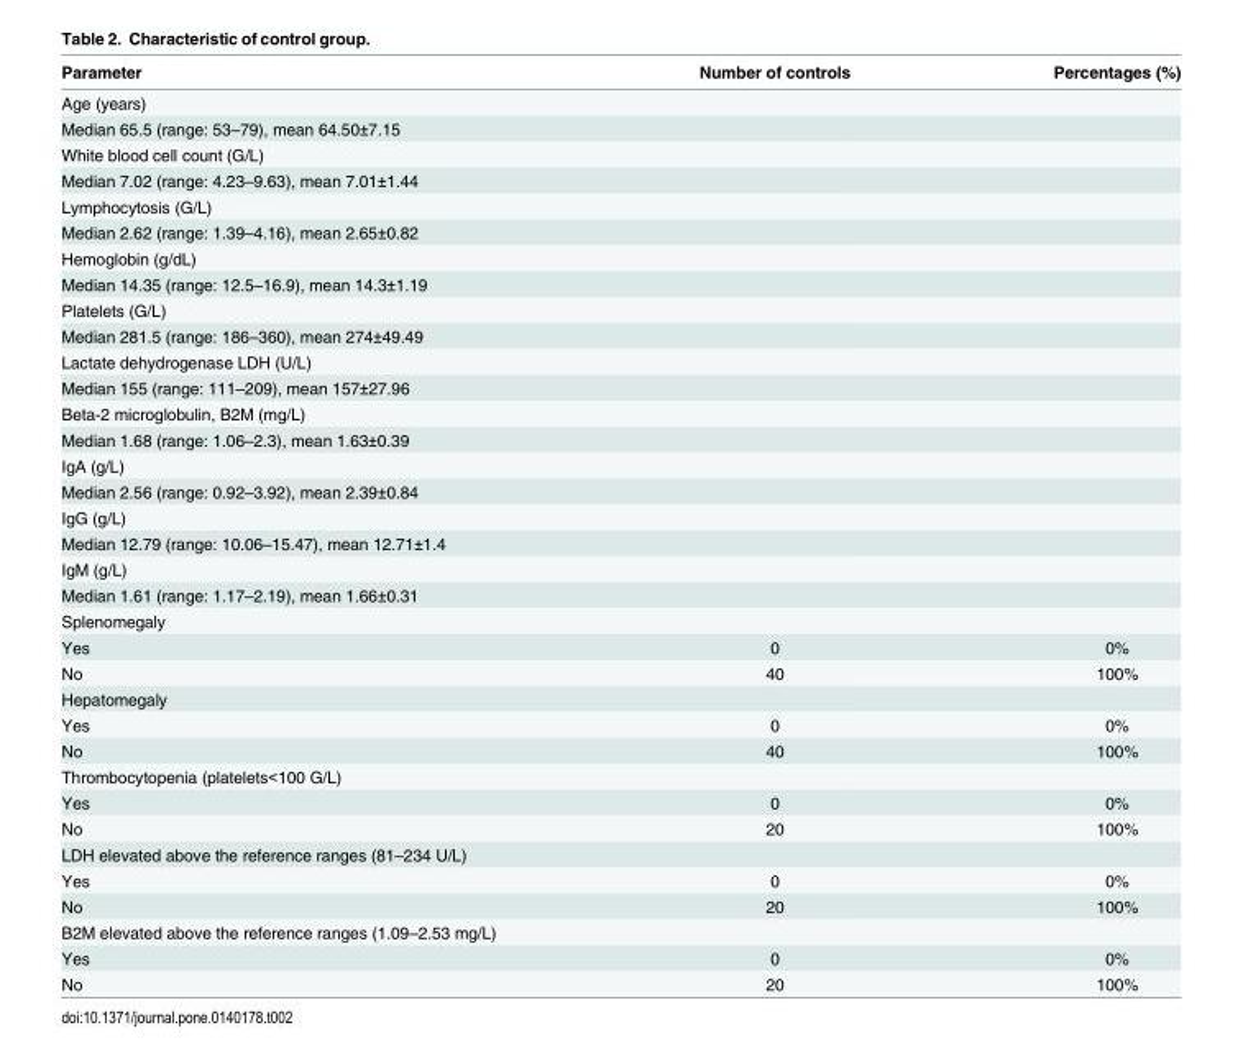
<table><thead><tr><td>Parameter</td><td>Number of controls</td><td>Percentages (%)</td></tr></thead><tbody><tr><td colspan="3">Age (years)</td></tr><tr><td colspan="3">Median 65.5 (range: 53–79), mean 64.50±7.15</td></tr><tr><td colspan="3">White blood cell count (G/L)</td></tr><tr><td colspan="3">Median 7.02 (range: 4.23–9.63), mean 7.01±1.44</td></tr><tr><td colspan="3">Lymphocytosis (G/L)</td></tr><tr><td colspan="3">Median 2.62 (range: 1.39–4.16), mean 2.65±0.82</td></tr><tr><td colspan="3">Hemoglobin (g/dL)</td></tr><tr><td colspan="3">Median 14.35 (range: 12.5–16.9), mean 14.3±1.19</td></tr><tr><td colspan="3">Platelets (G/L)</td></tr><tr><td colspan="3">Median 281.5 (range: 186–360), mean 274±49.49</td></tr><tr><td colspan="3">Lactate dehydrogenase LDH (U/L)</td></tr><tr><td colspan="3">Median 155 (range: 111–209), mean 157±27.96</td></tr><tr><td colspan="3">Beta-2 microglobulin, B2M (mg/L)</td></tr><tr><td colspan="3">Median 1.68 (range: 1.06–2.3), mean 1.63±0.39</td></tr><tr><td colspan="3">IgA (g/L)</td></tr><tr><td colspan="3">Median 2.56 (range: 0.92–3.92), mean 2.39±0.84</td></tr><tr><td colspan="3">IgG (g/L)</td></tr><tr><td colspan="3">Median 12.79 (range: 10.06–15.47), mean 12.71±1.4</td></tr><tr><td colspan="3">IgM (g/L)</td></tr><tr><td colspan="3">Median 1.61 (range: 1.17–2.19), mean 1.66±0.31</td></tr><tr><td colspan="3">Splenomegaly</td></tr><tr><td>Yes</td><td>0</td><td>0%</td></tr><tr><td>No</td><td>40</td><td>100%</td></tr><tr><td colspan="3">Hepatomegaly</td></tr><tr><td>Yes</td><td>0</td><td>0%</td></tr><tr><td>No</td><td>40</td><td>100%</td></tr><tr><td colspan="3">Thrombocytopenia (platelets&lt;100 G/L)</td></tr><tr><td>Yes</td><td>0</td><td>0%</td></tr><tr><td>No</td><td>20</td><td>100%</td></tr><tr><td colspan="3">LDH elevated above the reference ranges (81–234 U/L)</td></tr><tr><td>Yes</td><td>0</td><td>0%</td></tr><tr><td>No</td><td>20</td><td>100%</td></tr><tr><td colspan="3">B2M elevated above the reference ranges (1.09–2.53 mg/L)</td></tr><tr><td>Yes</td><td>0</td><td>0%</td></tr><tr><td>No</td><td>20</td><td>100%</td></tr></tbody></table>